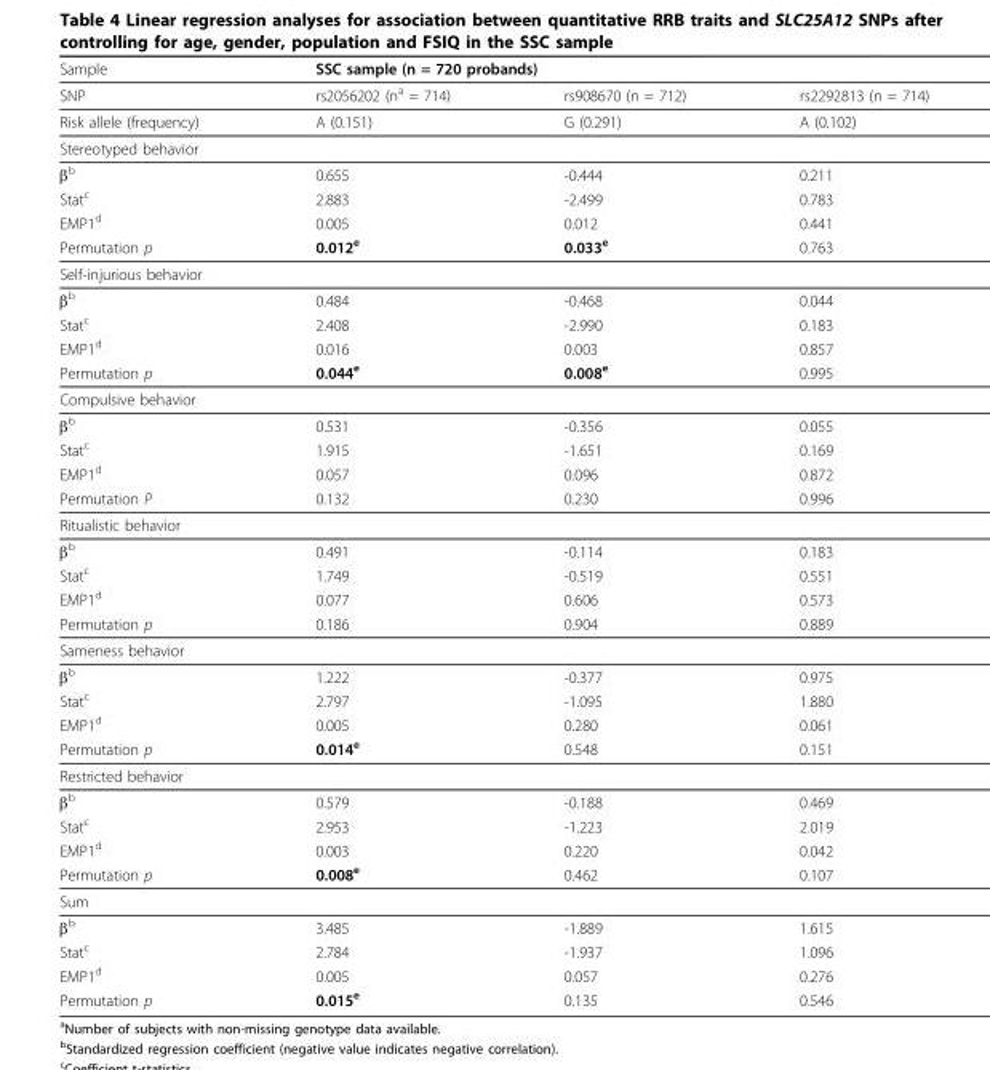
<table><thead><tr><td rowspan="2">Sample SNP</td><td colspan="3">SSC sample (n = 720 probands)</td></tr><tr><td>rs2056202 (na = 714)</td><td>rs908670 (n = 712)</td><td>rs2292813 (n = 714)</td></tr></thead><tbody><tr><td>Risk allele (frequency)</td><td>A (0.151)</td><td>G (0.291)</td><td>A (0.102)</td></tr><tr><td colspan="4">Stereotyped behavior</td></tr><tr><td>β<sup>b</sup></td><td>0.655</td><td>-0.444</td><td>0.211</td></tr><tr><td>Stat<sup>c</sup></td><td>2.883</td><td>-2.499</td><td>0.783</td></tr><tr><td>EMP1<sup>d</sup></td><td>0.005</td><td>0.012</td><td>0.441</td></tr><tr><td>Permutation p</td><td>0.012<sup>e</sup></td><td>0.033<sup>e</sup></td><td>0.763</td></tr><tr><td colspan="4">Self-injurious behavior</td></tr><tr><td>β<sup>b</sup></td><td>0.484</td><td>-0.468</td><td>0.044</td></tr><tr><td>Stat<sup>c</sup></td><td>2.408</td><td>-2.990</td><td>0.183</td></tr><tr><td>EMP1<sup>d</sup></td><td>0.016</td><td>0.003</td><td>0.857</td></tr><tr><td>Permutation p</td><td>0.044<sup>e</sup></td><td>0.008<sup>e</sup></td><td>0.995</td></tr><tr><td colspan="4">Compulsive behavior</td></tr><tr><td>β<sup>b</sup></td><td>0.531</td><td>-0.356</td><td>0.055</td></tr><tr><td>Stat<sup>c</sup></td><td>1.915</td><td>-1.651</td><td>0.169</td></tr><tr><td>EMP1<sup>d</sup></td><td>0.057</td><td>0.096</td><td>0.872</td></tr><tr><td>Permutation P</td><td>0.132</td><td>0.230</td><td>0.996</td></tr><tr><td colspan="4">Ritualistic behavior</td></tr><tr><td>β<sup>b</sup></td><td>0.491</td><td>-0.114</td><td>0.183</td></tr><tr><td>Stat<sup>c</sup></td><td>1.749</td><td>-0.519</td><td>0.551</td></tr><tr><td>EMP1<sup>d</sup></td><td>0.077</td><td>0.606</td><td>0.573</td></tr><tr><td>Permutation p</td><td>0.186</td><td>0.904</td><td>0.889</td></tr><tr><td colspan="4">Sameness behavior</td></tr><tr><td>β<sup>b</sup></td><td>1.222</td><td>-0.377</td><td>0.975</td></tr><tr><td>Stat<sup>c</sup></td><td>2.797</td><td>-1.095</td><td>1.880</td></tr><tr><td>EMP1<sup>d</sup></td><td>0.005</td><td>0.280</td><td>0.061</td></tr><tr><td>Permutation p</td><td>0.014<sup>e</sup></td><td>0.548</td><td>0.151</td></tr><tr><td colspan="4">Restricted behavior</td></tr><tr><td>β<sup>b</sup></td><td>0.579</td><td>-0.188</td><td>0.469</td></tr><tr><td>Stat<sup>c</sup></td><td>2.953</td><td>-1.223</td><td>2.019</td></tr><tr><td>EMP1<sup>d</sup></td><td>0.003</td><td>0.220</td><td>0.042</td></tr><tr><td>Permutation p</td><td>0.008<sup>e</sup></td><td>0.462</td><td>0.107</td></tr><tr><td colspan="4">Sum</td></tr><tr><td>β<sup>b</sup></td><td>3.485</td><td>-1.889</td><td>1.615</td></tr><tr><td>Stat<sup>c</sup></td><td>2.784</td><td>-1.937</td><td>1.096</td></tr><tr><td>EMP1<sup>d</sup></td><td>0.005</td><td>0.057</td><td>0.276</td></tr><tr><td>Permutation p</td><td>0.015<sup>e</sup></td><td>0.135</td><td>0.546</td></tr></tbody></table>